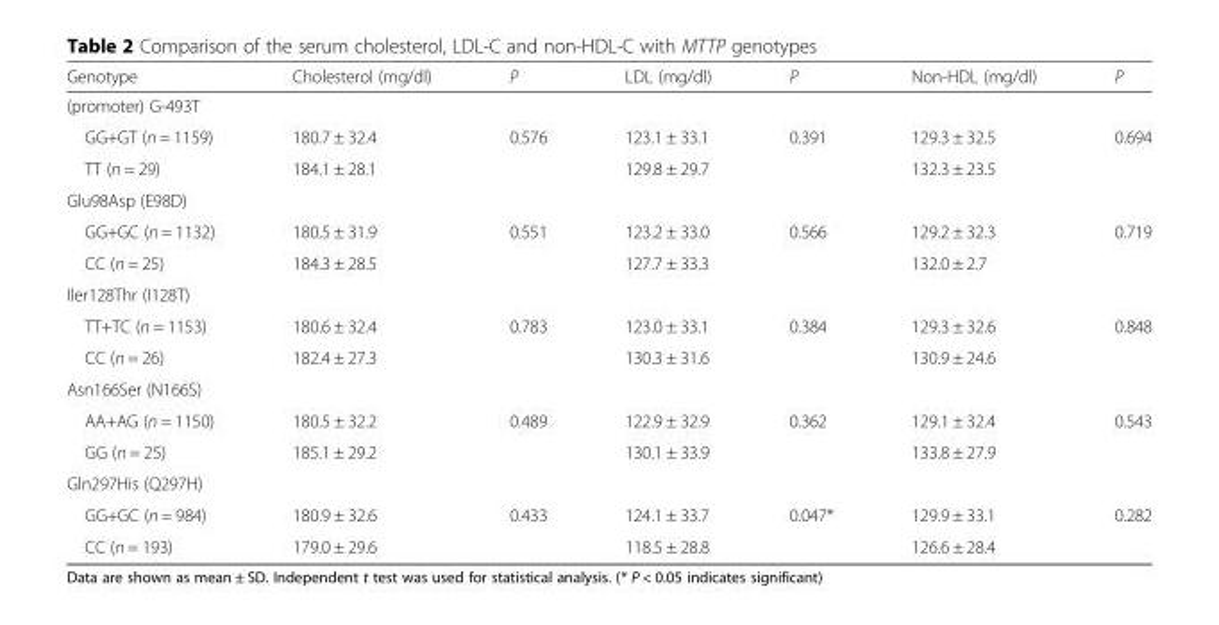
<table><thead><tr><td>Genotype</td><td>Cholesterol (mg/dl)</td><td>P</td><td>LDL (mg/dl)</td><td>P</td><td>Non-HDL (mg/dl)</td><td>P</td></tr></thead><tbody><tr><td colspan="7">(promoter) G-493T</td></tr><tr><td>GG+GT (n = 1159)</td><td>180.7 ± 32.4</td><td>0.576</td><td>123.1 ± 33.1</td><td>0.391</td><td>129.3 ± 32.5</td><td>0.694</td></tr><tr><td>TT (n = 29)</td><td>184.1 ± 28.1</td><td></td><td>129.8 ± 29.7</td><td></td><td>132.3 ± 23.5</td><td></td></tr><tr><td colspan="7">Glu98Asp (E98D)</td></tr><tr><td>GG+GC (n = 1132)</td><td>180.5 ± 31.9</td><td>0.551</td><td>123.2 ± 33.0</td><td>0.566</td><td>129.2 ± 32.3</td><td>0.719</td></tr><tr><td>CC (n = 25)</td><td>184.3 ± 28.5</td><td></td><td>127.7 ± 33.3</td><td></td><td>132.0 ± 2.7</td><td></td></tr><tr><td colspan="7">Iler128Thr (I128T)</td></tr><tr><td>TT+TC (n = 1153)</td><td>180.6 ± 32.4</td><td>0.783</td><td>123.0 ± 33.1</td><td>0.384</td><td>129.3 ± 32.6</td><td>0.848</td></tr><tr><td>CC (n = 26)</td><td>182.4 ± 27.3</td><td></td><td>130.3 ± 31.6</td><td></td><td>130.9 ± 24.6</td><td></td></tr><tr><td colspan="7">Asn166Ser (N166S)</td></tr><tr><td>AA+AG (n = 1150)</td><td>180.5 ± 32.2</td><td>0.489</td><td>122.9 ± 32.9</td><td>0.362</td><td>129.1 ± 32.4</td><td>0.543</td></tr><tr><td>GG (n = 25)</td><td>185.1 ± 29.2</td><td></td><td>130.1 ± 33.9</td><td></td><td>133.8 ± 27.9</td><td></td></tr><tr><td colspan="7">Gln297His (Q297H)</td></tr><tr><td>GG+GC (n = 984)</td><td>180.9 ± 32.6</td><td>0.433</td><td>124.1 ± 33.7</td><td>0.047*</td><td>129.9 ± 33.1</td><td>0.282</td></tr><tr><td>CC (n = 193)</td><td>179.0 ± 29.6</td><td></td><td>118.5 ± 28.8</td><td></td><td>126.6 ± 28.4</td><td></td></tr></tbody></table>